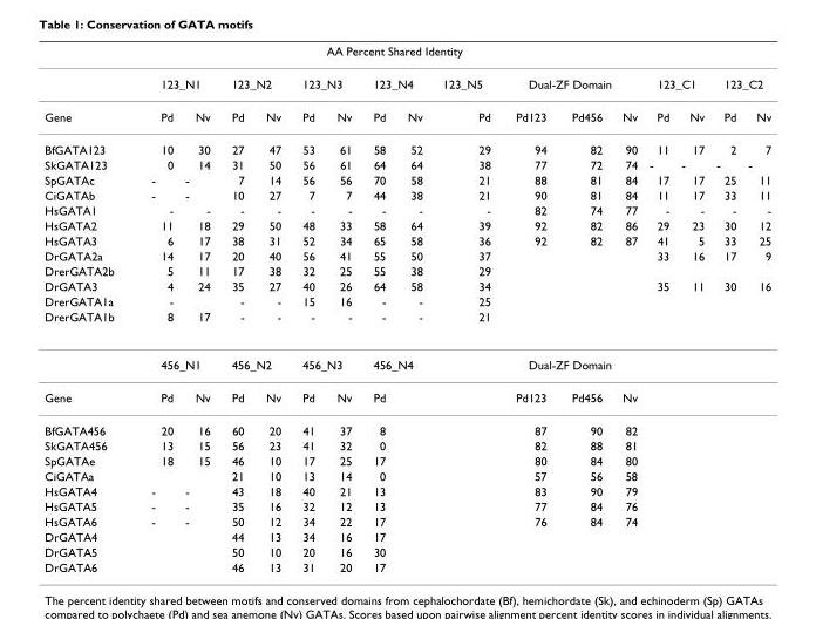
<table><thead><tr><td rowspan="3">Gene</td><td colspan="12">AA Percent Shared Identity</td><td></td><td></td><td></td><td></td></tr><tr><td colspan="2">123_N1</td><td colspan="2">123_N2</td><td colspan="2">123_N3</td><td colspan="2">123_N4</td><td rowspan="2">123_N5 Pd</td><td colspan="3">Dual-ZF Domain</td><td colspan="2">123_C1</td><td colspan="2">123_C2</td></tr><tr><td>Pd</td><td>Nv</td><td>Pd</td><td>Nv</td><td>Pd</td><td>Nv</td><td>Pd</td><td>Nv</td><td>Pd123</td><td>Pd456</td><td>Nv</td><td>Pd</td><td>Nv</td><td>Pd</td><td>Nv</td></tr></thead><tbody><tr><td>BfGATA123</td><td>10</td><td>30</td><td>27</td><td>47</td><td>53</td><td>61</td><td>58</td><td>52</td><td>29</td><td>94</td><td>82</td><td>90</td><td>11</td><td>17</td><td>2</td><td>7</td></tr><tr><td>SkGATA123</td><td>0</td><td>14</td><td>31</td><td>50</td><td>56</td><td>61</td><td>64</td><td>64</td><td>38</td><td>77</td><td>72</td><td>74</td><td>-</td><td>-</td><td>-</td><td>-</td></tr><tr><td>SpGATAc</td><td>-</td><td>-</td><td>7</td><td>14</td><td>56</td><td>56</td><td>70</td><td>58</td><td>21</td><td>88</td><td>81</td><td>84</td><td>17</td><td>17</td><td>25</td><td>11</td></tr><tr><td>CiGATAb</td><td>-</td><td>-</td><td>10</td><td>27</td><td>7</td><td>7</td><td>44</td><td>38</td><td>21</td><td>90</td><td>81</td><td>84</td><td>11</td><td>17</td><td>33</td><td>11</td></tr><tr><td>HsGATA1</td><td>-</td><td>-</td><td>-</td><td>-</td><td>-</td><td>-</td><td>-</td><td>-</td><td>-</td><td>82</td><td>74</td><td>77</td><td>-</td><td>-</td><td>-</td><td>-</td></tr><tr><td>HsGATA2</td><td>11</td><td>18</td><td>29</td><td>50</td><td>48</td><td>33</td><td>58</td><td>64</td><td>39</td><td>92</td><td>82</td><td>86</td><td>29</td><td>23</td><td>30</td><td>12</td></tr><tr><td>HsGATA3</td><td>6</td><td>17</td><td>38</td><td>31</td><td>52</td><td>34</td><td>65</td><td>58</td><td>36</td><td>92</td><td>82</td><td>87</td><td>41</td><td>5</td><td>33</td><td>25</td></tr><tr><td>DrGATA2a</td><td>14</td><td>17</td><td>20</td><td>40</td><td>56</td><td>41</td><td>55</td><td>50</td><td>37</td><td></td><td></td><td></td><td>33</td><td>16</td><td>17</td><td>9</td></tr><tr><td>DrerGATA2b</td><td>5</td><td>11</td><td>17</td><td>38</td><td>32</td><td>25</td><td>55</td><td>38</td><td>29</td><td></td><td></td><td></td><td></td><td></td><td></td><td></td></tr><tr><td>DrGATA3</td><td>4</td><td>24</td><td>35</td><td>27</td><td>40</td><td>26</td><td>64</td><td>58</td><td>34</td><td></td><td></td><td></td><td>35</td><td>11</td><td>30</td><td>16</td></tr><tr><td>DrerGATA1a</td><td>-</td><td></td><td>-</td><td>-</td><td>15</td><td>16</td><td>-</td><td>-</td><td>25</td><td></td><td></td><td></td><td></td><td></td><td></td><td></td></tr><tr><td rowspan="2">DrerGATA1b</td><td>8</td><td>17</td><td>-</td><td>-</td><td>-</td><td>-</td><td>-</td><td>-</td><td>21</td><td></td><td></td><td></td><td></td><td></td><td></td><td></td></tr><tr><td colspan="2">456_N1</td><td colspan="2">456_N2</td><td colspan="2">456_N3</td><td colspan="2">456_N4</td><td></td><td colspan="3">Dual-ZF Domain</td><td></td><td></td><td></td><td></td></tr><tr><td>Gene</td><td>Pd</td><td>Nv</td><td>Pd</td><td>Nv</td><td>Pd</td><td>Nv</td><td>Pd</td><td></td><td></td><td>Pd123</td><td>Pd456</td><td>Nv</td><td></td><td></td><td></td><td></td></tr><tr><td>BfGATA456</td><td>20</td><td>16</td><td>60</td><td>20</td><td>41</td><td>37</td><td>8</td><td></td><td></td><td>87</td><td>90</td><td>82</td><td></td><td></td><td></td><td></td></tr><tr><td>SkGATA456</td><td>13</td><td>15</td><td>56</td><td>23</td><td>41</td><td>32</td><td>0</td><td></td><td></td><td>82</td><td>88</td><td>81</td><td></td><td></td><td></td><td></td></tr><tr><td>SpGATAe</td><td>18</td><td>15</td><td>46</td><td>10</td><td>17</td><td>25</td><td>17</td><td></td><td></td><td>80</td><td>84</td><td>80</td><td></td><td></td><td></td><td></td></tr><tr><td>CiGATAa</td><td></td><td></td><td>21</td><td>10</td><td>13</td><td>14</td><td>0</td><td></td><td></td><td>57</td><td>56</td><td>58</td><td></td><td></td><td></td><td></td></tr><tr><td>HsGATA4</td><td>-</td><td>-</td><td>43</td><td>18</td><td>40</td><td>21</td><td>13</td><td></td><td></td><td>83</td><td>90</td><td>79</td><td></td><td></td><td></td><td></td></tr><tr><td>HsGATA5</td><td>-</td><td>-</td><td>35</td><td>16</td><td>32</td><td>12</td><td>13</td><td></td><td></td><td>77</td><td>84</td><td>76</td><td></td><td></td><td></td><td></td></tr><tr><td>HsGATA6</td><td>-</td><td>-</td><td>50</td><td>12</td><td>34</td><td>22</td><td>17</td><td></td><td></td><td>76</td><td>84</td><td>74</td><td></td><td></td><td></td><td></td></tr><tr><td>DrGATA4</td><td></td><td></td><td>44</td><td>13</td><td>34</td><td>16</td><td>17</td><td></td><td></td><td></td><td></td><td></td><td></td><td></td><td></td><td></td></tr><tr><td>DrGATA5</td><td></td><td></td><td>50</td><td>10</td><td>20</td><td>16</td><td>30</td><td></td><td></td><td></td><td></td><td></td><td></td><td></td><td></td><td></td></tr><tr><td>DrGATA6</td><td></td><td></td><td>46</td><td>13</td><td>31</td><td>20</td><td>17</td><td></td><td></td><td></td><td></td><td></td><td></td><td></td><td></td><td></td></tr></tbody></table>